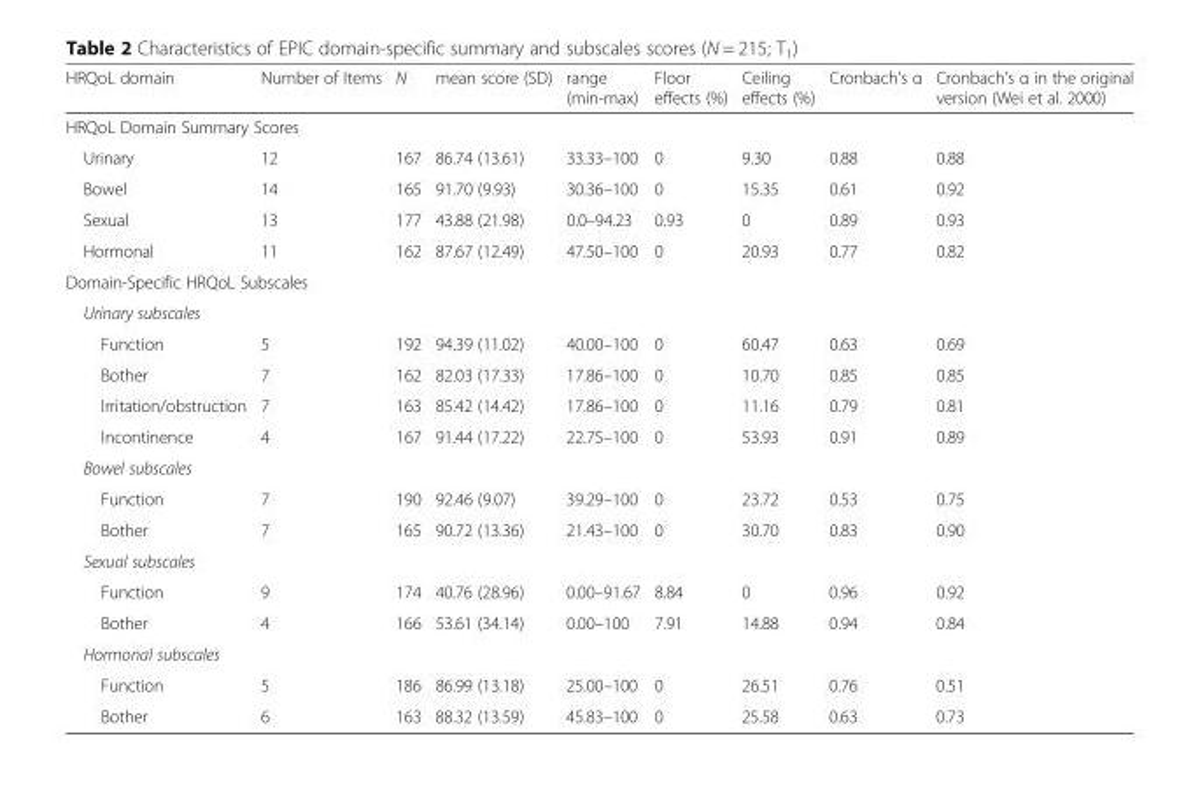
<table><thead><tr><td>HRQoL domain</td><td>Number of Items</td><td>N</td><td>mean score (SD)</td><td>range (min-max)</td><td>Floor effects (%)</td><td>Ceiling effects (%)</td><td>Cronbach’s α</td><td>Cronbach’s α in the original version (Wei et al. 2000)</td></tr></thead><tbody><tr><td colspan="9">HRQoL Domain Summary Scores</td></tr><tr><td>Urinary</td><td>12</td><td>167</td><td>86.74 (13.61)</td><td>33.33–100</td><td>0</td><td>9.30</td><td>0.88</td><td>0.88</td></tr><tr><td>Bowel</td><td>14</td><td>165</td><td>91.70 (9.93)</td><td>30.36–100</td><td>0</td><td>15.35</td><td>0.61</td><td>0.92</td></tr><tr><td>Sexual</td><td>13</td><td>177</td><td>43.88 (21.98)</td><td>0.0–94.23</td><td>0.93</td><td>0</td><td>0.89</td><td>0.93</td></tr><tr><td>Hormonal</td><td>11</td><td>162</td><td>87.67 (12.49)</td><td>47.50–100</td><td>0</td><td>20.93</td><td>0.77</td><td>0.82</td></tr><tr><td colspan="9">Domain-Specific HRQoL Subscales</td></tr><tr><td colspan="9">Urinary subscales</td></tr><tr><td>Function</td><td>5</td><td>192</td><td>94.39 (11.02)</td><td>40.00–100</td><td>0</td><td>60.47</td><td>0.63</td><td>0.69</td></tr><tr><td>Bother</td><td>7</td><td>162</td><td>82.03 (17.33)</td><td>17.86–100</td><td>0</td><td>10.70</td><td>0.85</td><td>0.85</td></tr><tr><td>Irritation/obstruction</td><td>7</td><td>163</td><td>85.42 (14.42)</td><td>17.86–100</td><td>0</td><td>11.16</td><td>0.79</td><td>0.81</td></tr><tr><td>Incontinence</td><td>4</td><td>167</td><td>91.44 (17.22)</td><td>22.75–100</td><td>0</td><td>53.93</td><td>0.91</td><td>0.89</td></tr><tr><td colspan="9">Bowel subscales</td></tr><tr><td>Function</td><td>7</td><td>190</td><td>92.46 (9.07)</td><td>39.29–100</td><td>0</td><td>23.72</td><td>0.53</td><td>0.75</td></tr><tr><td>Bother</td><td>7</td><td>165</td><td>90.72 (13.36)</td><td>21.43–100</td><td>0</td><td>30.70</td><td>0.83</td><td>0.90</td></tr><tr><td colspan="9">Sexual subscales</td></tr><tr><td>Function</td><td>9</td><td>174</td><td>40.76 (28.96)</td><td>0.00–91.67</td><td>8.84</td><td>0</td><td>0.96</td><td>0.92</td></tr><tr><td>Bother</td><td>4</td><td>166</td><td>53.61 (34.14)</td><td>0.00–100</td><td>7.91</td><td>14.88</td><td>0.94</td><td>0.84</td></tr><tr><td colspan="9">Hormonal subscales</td></tr><tr><td>Function</td><td>5</td><td>186</td><td>86.99 (13.18)</td><td>25.00–100</td><td>0</td><td>26.51</td><td>0.76</td><td>0.51</td></tr><tr><td>Bother</td><td>6</td><td>163</td><td>88.32 (13.59)</td><td>45.83–100</td><td>0</td><td>25.58</td><td>0.63</td><td>0.73</td></tr></tbody></table>